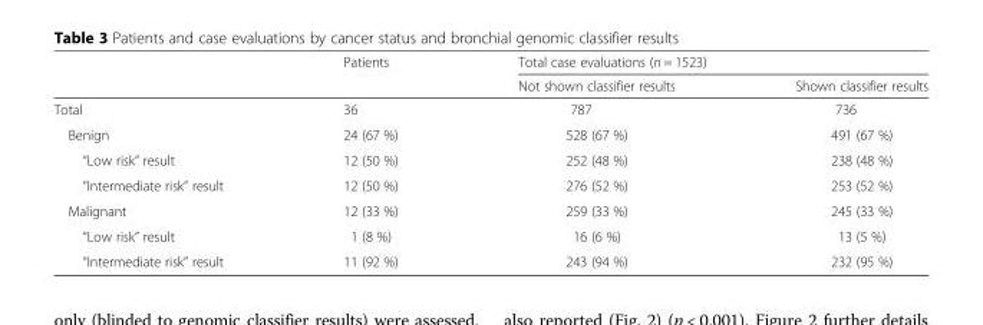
<table><thead><tr><td rowspan="2"></td><td rowspan="2">Patients</td><td colspan="2">Total case evaluations (n = 1523)</td></tr><tr><td>Not shown classifier results</td><td>Shown classifier results</td></tr></thead><tbody><tr><td>Total</td><td>36</td><td>787</td><td>736</td></tr><tr><td>Benign</td><td>24 (67 %)</td><td>528 (67 %)</td><td>491 (67 %)</td></tr><tr><td>“Low risk” result</td><td>12 (50 %)</td><td>252 (48 %)</td><td>238 (48 %)</td></tr><tr><td>“Intermediate risk” result</td><td>12 (50 %)</td><td>276 (52 %)</td><td>253 (52 %)</td></tr><tr><td>Malignant</td><td>12 (33 %)</td><td>259 (33 %)</td><td>245 (33 %)</td></tr><tr><td>“Low risk” result</td><td>1 (8 %)</td><td>16 (6 %)</td><td>13 (5 %)</td></tr><tr><td>“Intermediate risk” result</td><td>11 (92 %)</td><td>243 (94 %)</td><td>232 (95 %)</td></tr></tbody></table>